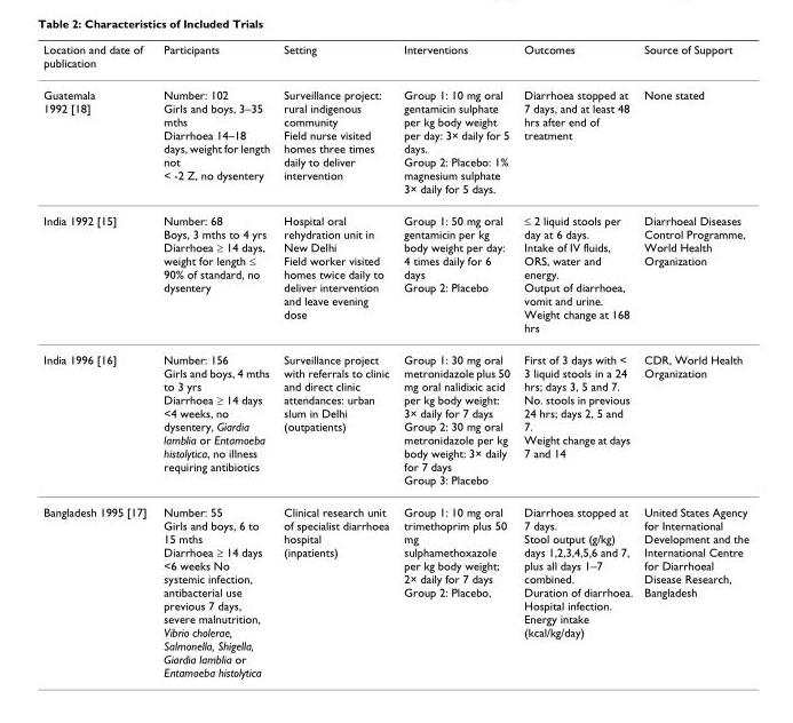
<table><thead><tr><td>Location and date of publication</td><td>Participants</td><td>Setting</td><td>Interventions</td><td>Outcomes</td><td>Source of Support</td></tr></thead><tbody><tr><td>Guatemala 1992 [18]</td><td>Number: 102 Girls and boys, 3–35 mths Diarrhoea 14–18 days, weight for length not &lt; -2 Z, no dysentery</td><td>Surveillance project: rural indigenous community Field nurse visited homes three times daily to deliver intervention</td><td>Group 1: 10 mg oral gentamicin sulphate per kg body weight per day: 3× daily for 5 days. Group 2: Placebo: 1% magnesium sulphate 3× daily for 5 days.</td><td>Diarrhoea stopped at 7 days, and at least 48 hrs after end of treatment</td><td>None stated</td></tr><tr><td>India 1992 [15]</td><td>Number: 68 Boys, 3 mths to 4 yrs Diarrhoea ≥ 14 days, weight for length ≤ 90% of standard, no dysentery</td><td>Hospital oral rehydration unit in New Delhi Field worker visited homes twice daily to deliver intervention and leave evening dose</td><td>Group 1: 50 mg oral gentamicin per kg body weight per day: 4 times daily for 6 days Group 2: Placebo</td><td>≤ 2 liquid stools per day at 6 days. Intake of IV fluids, ORS, water and energy. Output of diarrhoea, vomit and urine. Weight change at 168 hrs</td><td>Diarrhoeal Diseases Control Programme, World Health Organization</td></tr><tr><td>India 1996 [16]</td><td>Number: 156 Girls and boys, 4 mths to 3 yrs Diarrhoea ≥ 14 days &lt;4 weeks, no dysentery, Giardia lamblia or Entamoeba histolytica, no illness requiring antibiotics</td><td>Surveillance project with referrals to clinic and direct clinic attendances: urban slum in Delhi (outpatients)</td><td>Group 1: 30 mg oral metronidazole plus 50 mg oral nalidixic acid per kg body weight: 3× daily for 7 days Group 2: 30 mg oral metronidazole per kg body weight: 3× daily for 7 days Group 3: Placebo</td><td>First of 3 days with &lt; 3 liquid stools in a 24 hrs; days 3, 5 and 7. No. stools in previous 24 hrs; days 2, 5 and 7. Weight change at days 7 and 14</td><td>CDR, World Health Organization</td></tr><tr><td>Bangladesh 1995 [17]</td><td>Number: 55 Girls and boys, 6 to 15 mths Diarrhoea ≥ 14 days &lt;6 weeks No systemic infection, antibacterial use previous 7 days, severe malnutrition, Vibrio cholerae, Salmonella, Shigella, Giardia lamblia or Entamoeba histolytica</td><td>Clinical research unit of specialist diarrhoea hospital (inpatients)</td><td>Group 1: 10 mg oral trimethoprim plus 50 mg sulphamethoxazole per kg body weight; 2× daily for 7 days Group 2: Placebo,</td><td>Diarrhoea stopped at 7 days. Stool output (g/kg) days 1,2,3,4,5,6 and 7, plus all days 1–7 combined. Duration of diarrhoea. Hospital infection. Energy intake (kcal/kg/day)</td><td>United States Agency for International Development and the International Centre for Diarrhoeal Disease Research, Bangladesh</td></tr></tbody></table>